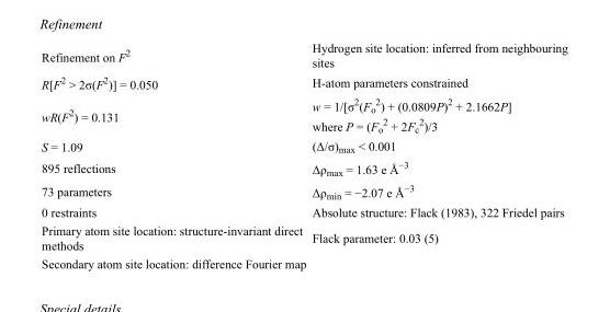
<table><tbody><tr><td>Refinement on F<sup>2</sup></td><td>Hydrogen site location: inferred from neighbouring sites</td></tr><tr><td>R[F<sup>2</sup> &gt; 2σ(F<sup>2</sup>)] = 0.050</td><td>H-atom parameters constrained</td></tr><tr><td>wR(F<sup>2</sup>) = 0.131</td><td>w = 1/[σ<sup>2</sup>(F<sub>o</sub> <sup>2</sup>) + (0.0809P)<sup>2</sup> + 2.1662P] where P = (F<sub>o</sub> <sup>2</sup> + 2F<sub>c</sub> <sup>2</sup>)/3</td></tr><tr><td>S = 1.09</td><td>(Δ/σ)<sub>max</sub> &lt; 0.001</td></tr><tr><td>895 reflections</td><td>Δρ<sub>max</sub> = 1.63 e Å<sup>−3</sup></td></tr><tr><td>73 parameters</td><td>Δρ<sub>min</sub> = −2.07 e Å<sup>−3</sup></td></tr><tr><td>0 restraints</td><td>Absolute structure: Flack (1983), 322 Friedel pairs</td></tr><tr><td>Primary atom site location: structure-invariant direct methods</td><td>Flack parameter: 0.03 (5)</td></tr><tr><td>Secondary atom site location: difference Fourier map</td><td></td></tr></tbody></table>